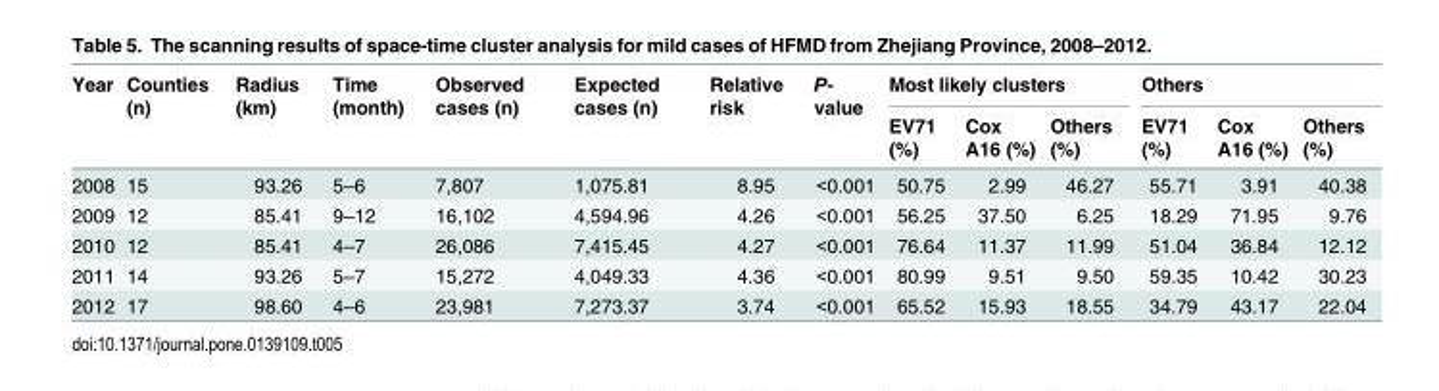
<table><thead><tr><td rowspan="2">Year</td><td rowspan="2">Counties (n)</td><td rowspan="2">Radius (km)</td><td rowspan="2">Time (month)</td><td rowspan="2">Observed cases (n)</td><td rowspan="2">Expected cases (n)</td><td rowspan="2">Relative risk</td><td rowspan="2">P- value</td><td colspan="3">Most likely clusters</td><td colspan="3">Others</td></tr><tr><td>EV71 (%)</td><td>Cox A16 (%)</td><td>Others (%)</td><td>EV71 (%)</td><td>Cox A16 (%)</td><td>Others (%)</td></tr></thead><tbody><tr><td>2008</td><td>15</td><td>93.26</td><td>5–6</td><td>7,807</td><td>1,075.81</td><td>8.95</td><td>&lt;0.001</td><td>50.75</td><td>2.99</td><td>46.27</td><td>55.71</td><td>3.91</td><td>40.38</td></tr><tr><td>2009</td><td>12</td><td>85.41</td><td>9–12</td><td>16,102</td><td>4,594.96</td><td>4.26</td><td>&lt;0.001</td><td>56.25</td><td>37.50</td><td>6.25</td><td>18.29</td><td>71.95</td><td>9.76</td></tr><tr><td>2010</td><td>12</td><td>85.41</td><td>4–7</td><td>26,086</td><td>7,415.45</td><td>4.27</td><td>&lt;0.001</td><td>76.64</td><td>11.37</td><td>11.99</td><td>51.04</td><td>36.84</td><td>12.12</td></tr><tr><td>2011</td><td>14</td><td>93.26</td><td>5–7</td><td>15,272</td><td>4,049.33</td><td>4.36</td><td>&lt;0.001</td><td>80.99</td><td>9.51</td><td>9.50</td><td>59.35</td><td>10.42</td><td>30.23</td></tr><tr><td>2012</td><td>17</td><td>98.60</td><td>4–6</td><td>23,981</td><td>7,273.37</td><td>3.74</td><td>&lt;0.001</td><td>65.52</td><td>15.93</td><td>18.55</td><td>34.79</td><td>43.17</td><td>22.04</td></tr></tbody></table>